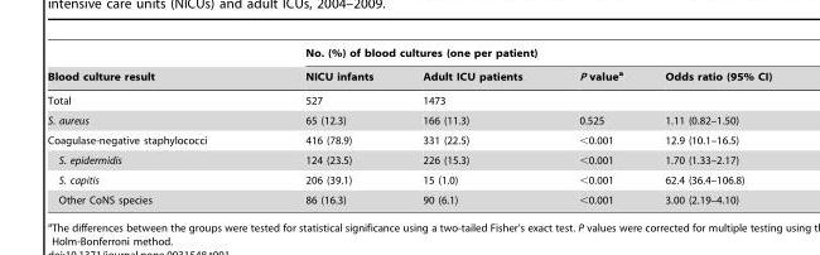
<table><thead><tr><td rowspan="2">Blood culture result</td><td colspan="4">No. (%) of blood cultures (one per patient)</td></tr><tr><td>NICU infants</td><td>Adult ICU patients</td><td>P value<sup>a</sup></td><td>Odds ratio (95% CI)</td></tr></thead><tbody><tr><td>Total</td><td>527</td><td>1473</td><td></td><td></td></tr><tr><td>S. aureus</td><td>65 (12.3)</td><td>166 (11.3)</td><td>0.525</td><td>1.11 (0.82–1.50)</td></tr><tr><td>Coagulase-negative staphylococci</td><td>416 (78.9)</td><td>331 (22.5)</td><td>&lt;0.001</td><td>12.9 (10.1–16.5)</td></tr><tr><td>S. epidermidis</td><td>124 (23.5)</td><td>226 (15.3)</td><td>&lt;0.001</td><td>1.70 (1.33–2.17)</td></tr><tr><td>S. capitis</td><td>206 (39.1)</td><td>15 (1.0)</td><td>&lt;0.001</td><td>62.4 (36.4–106.8)</td></tr><tr><td>Other CoNS species</td><td>86 (16.3)</td><td>90 (6.1)</td><td>&lt;0.001</td><td>3.00 (2.19–4.10)</td></tr></tbody></table>